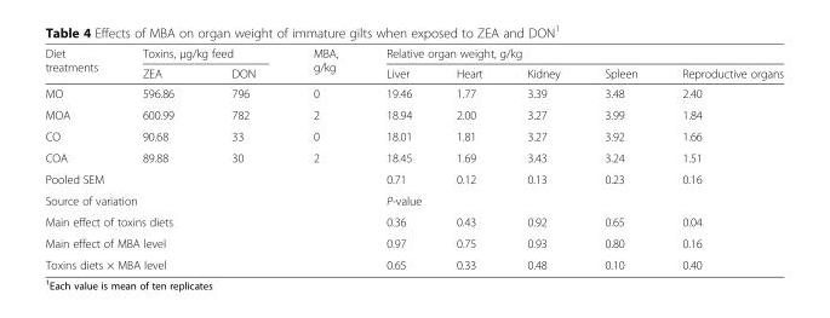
<table><thead><tr><td rowspan="2">Diet treatments</td><td colspan="2">Toxins, μg/kg feed</td><td rowspan="2">MBA, g/kg</td><td colspan="5">Relative organ weight, g/kg</td></tr><tr><td>ZEA</td><td>DON</td><td>Liver</td><td>Heart</td><td>Kidney</td><td>Spleen</td><td>Reproductive organs</td></tr></thead><tbody><tr><td>MO</td><td>596.86</td><td>796</td><td>0</td><td>19.46</td><td>1.77</td><td>3.39</td><td>3.48</td><td>2.40</td></tr><tr><td>MOA</td><td>600.99</td><td>782</td><td>2</td><td>18.94</td><td>2.00</td><td>3.27</td><td>3.99</td><td>1.84</td></tr><tr><td>CO</td><td>90.68</td><td>33</td><td>0</td><td>18.01</td><td>1.81</td><td>3.27</td><td>3.92</td><td>1.66</td></tr><tr><td>COA</td><td>89.88</td><td>30</td><td>2</td><td>18.45</td><td>1.69</td><td>3.43</td><td>3.24</td><td>1.51</td></tr><tr><td colspan="4">Pooled SEM</td><td>0.71</td><td>0.12</td><td>0.13</td><td>0.23</td><td>0.16</td></tr><tr><td colspan="4">Source of variation</td><td colspan="5">P-value</td></tr><tr><td colspan="4">Main effect of toxins diets</td><td>0.36</td><td>0.43</td><td>0.92</td><td>0.65</td><td>0.04</td></tr><tr><td colspan="4">Main effect of MBA level</td><td>0.97</td><td>0.75</td><td>0.93</td><td>0.80</td><td>0.16</td></tr><tr><td colspan="4">Toxins diets × MBA level</td><td>0.65</td><td>0.33</td><td>0.48</td><td>0.10</td><td>0.40</td></tr></tbody></table>